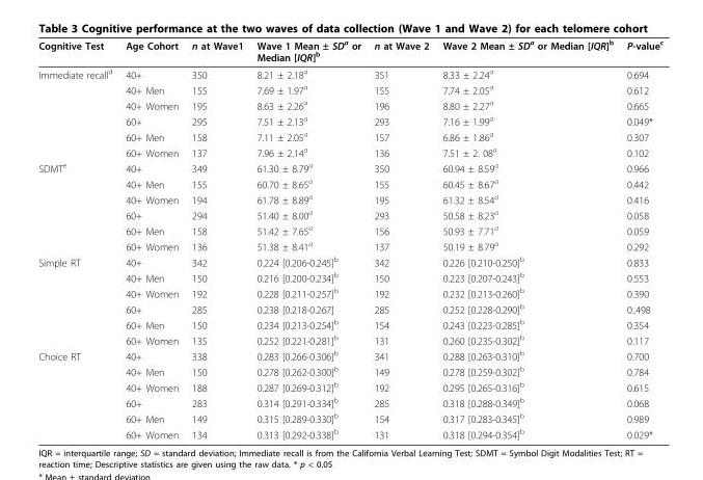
<table><thead><tr><td>Cognitive Test</td><td>Age Cohort</td><td>n at Wave1</td><td>Wave 1 Mean ± SD<sup>a</sup> or Median [IQR]<sup>b</sup></td><td>n at Wave 2</td><td>Wave 2 Mean ± SD<sup>a</sup> or Median [IQR]<sup>b</sup></td><td>P-value<sup>c</sup></td></tr></thead><tbody><tr><td rowspan="6">Immediate recall<sup>d</sup></td><td>40+</td><td>350</td><td>8.21 ± 2.18<sup>a</sup></td><td>351</td><td>8.33 ± 2.24<sup>a</sup></td><td>0.694</td></tr><tr><td>40+ Men</td><td>155</td><td>7.69 ± 1.97<sup>a</sup></td><td>155</td><td>7.74 ± 2.05<sup>a</sup></td><td>0.612</td></tr><tr><td>40+ Women</td><td>195</td><td>8.63 ± 2.26<sup>a</sup></td><td>196</td><td>8.80 ± 2.27<sup>a</sup></td><td>0.665</td></tr><tr><td>60+</td><td>295</td><td>7.51 ± 2.13<sup>a</sup></td><td>293</td><td>7.16 ± 1.99<sup>a</sup></td><td>0.049*</td></tr><tr><td>60+ Men</td><td>158</td><td>7.11 ± 2.05<sup>a</sup></td><td>157</td><td>6.86 ± 1.86<sup>a</sup></td><td>0.307</td></tr><tr><td>60+ Women</td><td>137</td><td>7.96 ± 2.14<sup>a</sup></td><td>136</td><td>7.51 ± 2. 08<sup>a</sup></td><td>0.102</td></tr><tr><td rowspan="6">SDMT<sup>e</sup></td><td>40+</td><td>349</td><td>61.30 ± 8.79<sup>a</sup></td><td>350</td><td>60.94 ± 8.59<sup>a</sup></td><td>0.966</td></tr><tr><td>40+ Men</td><td>155</td><td>60.70 ± 8.65<sup>a</sup></td><td>155</td><td>60.45 ± 8.67<sup>a</sup></td><td>0.442</td></tr><tr><td>40+ Women</td><td>194</td><td>61.78 ± 8.89<sup>a</sup></td><td>195</td><td>61.32 ± 8.54<sup>a</sup></td><td>0.416</td></tr><tr><td>60+</td><td>294</td><td>51.40 ± 8.00<sup>a</sup></td><td>293</td><td>50.58 ± 8.23<sup>a</sup></td><td>0.058</td></tr><tr><td>60+ Men</td><td>158</td><td>51.42 ± 7.65<sup>a</sup></td><td>156</td><td>50.93 ± 7.71<sup>a</sup></td><td>0.059</td></tr><tr><td>60+ Women</td><td>136</td><td>51.38 ± 8.41<sup>a</sup></td><td>137</td><td>50.19 ± 8.79<sup>a</sup></td><td>0.292</td></tr><tr><td rowspan="6">Simple RT</td><td>40+</td><td>342</td><td>0.224 [0.206-0.245]<sup>b</sup></td><td>342</td><td>0.226 [0.210-0.250]<sup>b</sup></td><td>0.833</td></tr><tr><td>40+ Men</td><td>150</td><td>0.216 [0.200-0.234]<sup>b</sup></td><td>150</td><td>0.223 [0.207-0.243]<sup>b</sup></td><td>0.553</td></tr><tr><td>40+ Women</td><td>192</td><td>0.228 [0.211-0.257]<sup>b</sup></td><td>192</td><td>0.232 [0.213-0.260]<sup>b</sup></td><td>0.390</td></tr><tr><td>60+</td><td>285</td><td>0.238 [0.218-0.267]</td><td>285</td><td>0.252 [0.228-0.290]<sup>b</sup></td><td>0..498</td></tr><tr><td>60+ Men</td><td>150</td><td>0.234 [0.213-0.254]<sup>b</sup></td><td>154</td><td>0.243 [0.223-0.285]<sup>b</sup></td><td>0.354</td></tr><tr><td>60+ Women</td><td>135</td><td>0.252 [0.221-0.281]<sup>b</sup></td><td>131</td><td>0.260 [0.235-0.302]<sup>b</sup></td><td>0.117</td></tr><tr><td rowspan="6">Choice RT</td><td>40+</td><td>338</td><td>0.283 [0.266-0.306]<sup>b</sup></td><td>341</td><td>0.288 [0.263-0.310]<sup>b</sup></td><td>0.700</td></tr><tr><td>40+ Men</td><td>150</td><td>0.278 [0.262-0.300]<sup>b</sup></td><td>149</td><td>0.278 [0.259-0.302]<sup>b</sup></td><td>0.784</td></tr><tr><td>40+ Women</td><td>188</td><td>0.287 [0.269-0.312]<sup>b</sup></td><td>192</td><td>0.295 [0.265-0.316]<sup>b</sup></td><td>0.615</td></tr><tr><td>60+</td><td>283</td><td>0.314 [0.291-0.334]<sup>b</sup></td><td>285</td><td>0.318 [0.288-0.349]<sup>b</sup></td><td>0.068</td></tr><tr><td>60+ Men</td><td>149</td><td>0.315 [0.289-0.330]<sup>b</sup></td><td>154</td><td>0.317 [0.283-0.345]<sup>b</sup></td><td>0.989</td></tr><tr><td>60+ Women</td><td>134</td><td>0.313 [0.292-0.338]<sup>b</sup></td><td>131</td><td>0.318 [0.294-0.354]<sup>b</sup></td><td>0.029*</td></tr></tbody></table>